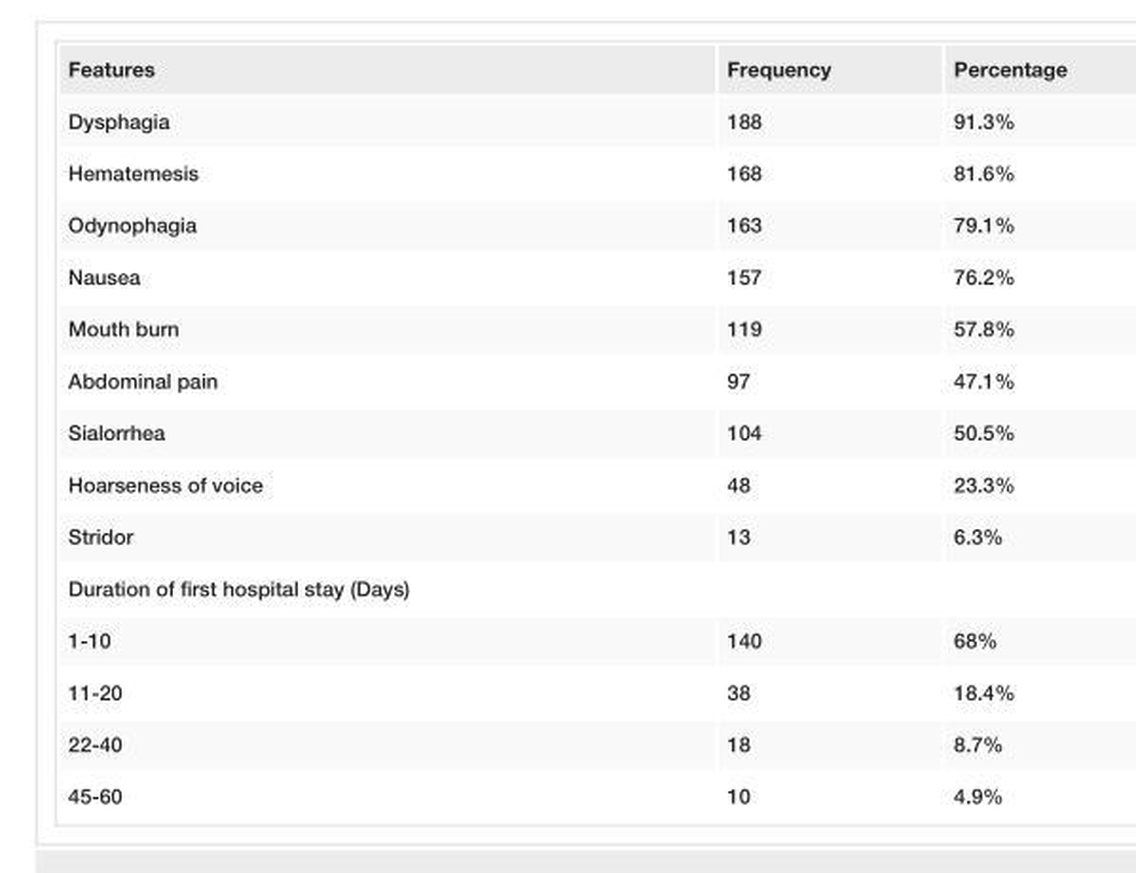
<table><tbody><tr><td>Features</td><td>Frequency</td><td>Percentage</td></tr><tr><td>Dysphagia</td><td>188</td><td>91.3%</td></tr><tr><td>Hematemesis</td><td>168</td><td>81.6%</td></tr><tr><td>Odynophagia</td><td>163</td><td>79.1%</td></tr><tr><td>Nausea</td><td>157</td><td>76.2%</td></tr><tr><td>Mouth burn</td><td>119</td><td>57.8%</td></tr><tr><td>Abdominal pain</td><td>97</td><td>47.1%</td></tr><tr><td>Sialorrhea</td><td>104</td><td>50.5%</td></tr><tr><td>Hoarseness of voice</td><td>48</td><td>23.3%</td></tr><tr><td>Stridor</td><td>13</td><td>6.3%</td></tr><tr><td colspan="3">Duration of first hospital stay (Days)</td></tr><tr><td>1-10</td><td>140</td><td>68%</td></tr><tr><td>11-20</td><td>38</td><td>18.4%</td></tr><tr><td>22-40</td><td>18</td><td>8.7%</td></tr><tr><td>45-60</td><td>10</td><td>4.9%</td></tr></tbody></table>